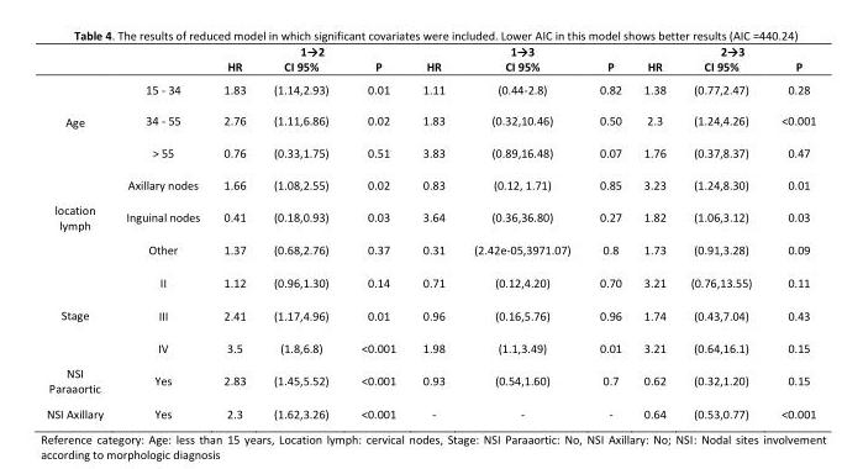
<table><thead><tr><td rowspan="2"></td><td rowspan="2"></td><td colspan="3">1→2</td><td colspan="3">1→3</td><td colspan="3">2→3</td></tr><tr><td>HR</td><td>CI 95%</td><td>P</td><td>HR</td><td>CI 95%</td><td>P</td><td>HR</td><td>CI 95%</td><td>P</td></tr></thead><tbody><tr><td rowspan="3">Age</td><td>15 - 34</td><td>1.83</td><td>(1.14,2.93)</td><td>0.01</td><td>1.11</td><td>(0.44-2.8)</td><td>0.82</td><td>1.38</td><td>(0.77,2.47)</td><td>0.28</td></tr><tr><td>34 - 55</td><td>2.76</td><td>(1.11,6.86)</td><td>0.02</td><td>1.83</td><td>(0.32,10.46)</td><td>0.50</td><td>2.3</td><td>(1.24,4.26)</td><td>&lt;0.001</td></tr><tr><td>&gt; 55</td><td>0.76</td><td>(0.33,1.75)</td><td>0.51</td><td>3.83</td><td>(0.89,16.48)</td><td>0.07</td><td>1.76</td><td>(0.37,8.37)</td><td>0.47</td></tr><tr><td rowspan="3">location lymph</td><td>Axillary nodes</td><td>1.66</td><td>(1.08,2.55)</td><td>0.02</td><td>0.83</td><td>(0.12, 1.71)</td><td>0.85</td><td>3.23</td><td>(1.24,8.30)</td><td>0.01</td></tr><tr><td>Inguinal nodes</td><td>0.41</td><td>(0.18,0.93)</td><td>0.03</td><td>3.64</td><td>(0.36,36.80)</td><td>0.27</td><td>1.82</td><td>(1.06,3.12)</td><td>0.03</td></tr><tr><td>Other</td><td>1.37</td><td>(0.68,2.76)</td><td>0.37</td><td>0.31</td><td>(2.42e-05,3971.07)</td><td>0.8</td><td>1.73</td><td>(0.91,3.28)</td><td>0.09</td></tr><tr><td rowspan="3">Stage</td><td>II</td><td>1.12</td><td>(0.96,1.30)</td><td>0.14</td><td>0.71</td><td>(0.12,4.20)</td><td>0.70</td><td>3.21</td><td>(0.76,13.55)</td><td>0.11</td></tr><tr><td>III</td><td>2.41</td><td>(1.17,4.96)</td><td>0.01</td><td>0.96</td><td>(0.16,5.76)</td><td>0.96</td><td>1.74</td><td>(0.43,7.04)</td><td>0.43</td></tr><tr><td>IV</td><td>3.5</td><td>(1.8,6.8)</td><td>&lt;0.001</td><td>1.98</td><td>(1.1,3.49)</td><td>0.01</td><td>3.21</td><td>(0.64,16.1)</td><td>0.15</td></tr><tr><td>NSI Paraaortic</td><td>Yes</td><td>2.83</td><td>(1.45,5.52)</td><td>&lt;0.001</td><td>0.93</td><td>(0.54,1.60)</td><td>0.7</td><td>0.62</td><td>(0.32,1.20)</td><td>0.15</td></tr><tr><td>NSI Axillary</td><td>Yes</td><td>2.3</td><td>(1.62,3.26)</td><td>&lt;0.001</td><td>-</td><td>-</td><td>-</td><td>0.64</td><td>(0.53,0.77)</td><td>&lt;0.001</td></tr></tbody></table>